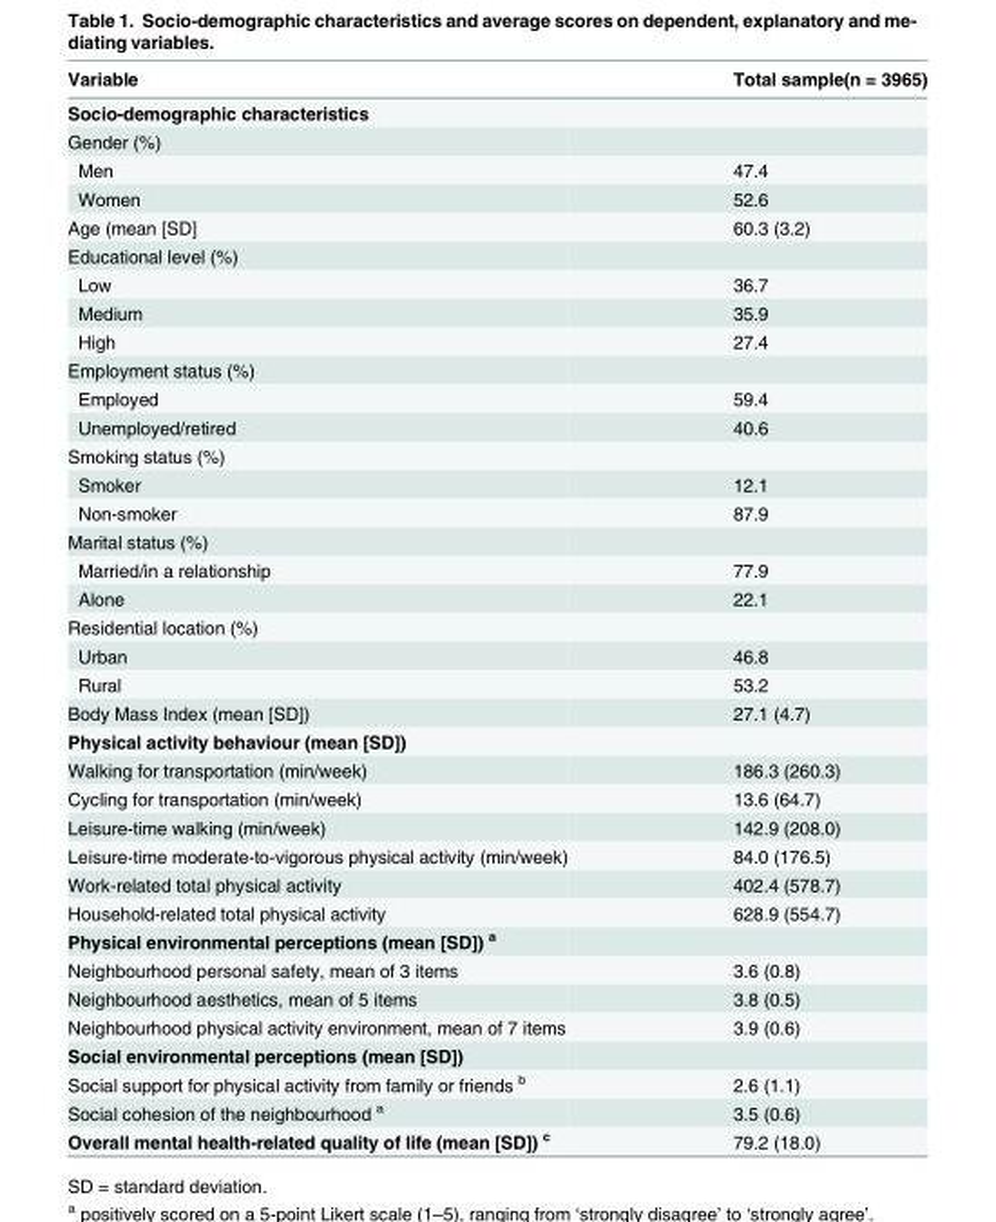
<table><thead><tr><td>Variable</td><td>Total sample(n = 3965)</td></tr></thead><tbody><tr><td colspan="2">Socio-demographic characteristics</td></tr><tr><td colspan="2">Gender (%)</td></tr><tr><td>Men</td><td>47.4</td></tr><tr><td>Women</td><td>52.6</td></tr><tr><td>Age (mean [SD]</td><td>60.3 (3.2)</td></tr><tr><td colspan="2">Educational level (%)</td></tr><tr><td>Low</td><td>36.7</td></tr><tr><td>Medium</td><td>35.9</td></tr><tr><td>High</td><td>27.4</td></tr><tr><td colspan="2">Employment status (%)</td></tr><tr><td>Employed</td><td>59.4</td></tr><tr><td>Unemployed/retired</td><td>40.6</td></tr><tr><td colspan="2">Smoking status (%)</td></tr><tr><td>Smoker</td><td>12.1</td></tr><tr><td>Non-smoker</td><td>87.9</td></tr><tr><td colspan="2">Marital status (%)</td></tr><tr><td>Married/in a relationship</td><td>77.9</td></tr><tr><td>Alone</td><td>22.1</td></tr><tr><td colspan="2">Residential location (%)</td></tr><tr><td>Urban</td><td>46.8</td></tr><tr><td>Rural</td><td>53.2</td></tr><tr><td>Body Mass Index (mean [SD])</td><td>27.1 (4.7)</td></tr><tr><td colspan="2">Physical activity behaviour (mean [SD])</td></tr><tr><td>Walking for transportation (min/week)</td><td>186.3 (260.3)</td></tr><tr><td>Cycling for transportation (min/week)</td><td>13.6 (64.7)</td></tr><tr><td>Leisure-time walking (min/week)</td><td>142.9 (208.0)</td></tr><tr><td>Leisure-time moderate-to-vigorous physical activity (min/week)</td><td>84.0 (176.5)</td></tr><tr><td>Work-related total physical activity</td><td>402.4 (578.7)</td></tr><tr><td>Household-related total physical activity</td><td>628.9 (554.7)</td></tr><tr><td colspan="2">Physical environmental perceptions (mean [SD]) <sup>a</sup></td></tr><tr><td>Neighbourhood personal safety, mean of 3 items</td><td>3.6 (0.8)</td></tr><tr><td>Neighbourhood aesthetics, mean of 5 items</td><td>3.8 (0.5)</td></tr><tr><td>Neighbourhood physical activity environment, mean of 7 items</td><td>3.9 (0.6)</td></tr><tr><td colspan="2">Social environmental perceptions (mean [SD])</td></tr><tr><td>Social support for physical activity from family or friends <sup>b</sup></td><td>2.6 (1.1)</td></tr><tr><td>Social cohesion of the neighbourhood <sup>a</sup></td><td>3.5 (0.6)</td></tr><tr><td>Overall mental health-related quality of life (mean [SD]) <sup>c</sup></td><td>79.2 (18.0)</td></tr></tbody></table>